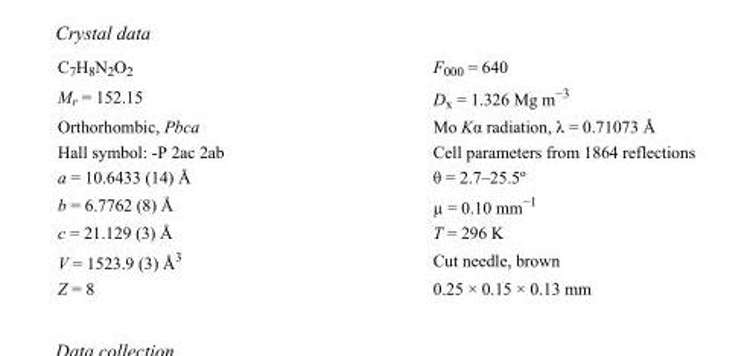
<table><tbody><tr><td>C<sub>7</sub>H<sub>8</sub>N<sub>2</sub>O<sub>2</sub></td><td>F000 = 640</td></tr><tr><td>M<sub>r</sub> = 152.15</td><td>D<sub>x</sub> = 1.326 Mg m<sup>−3</sup></td></tr><tr><td>Orthorhombic, Pbca</td><td>Mo Kα radiation, λ = 0.71073 Å</td></tr><tr><td>Hall symbol: -P 2ac 2ab</td><td>Cell parameters from 1864 reflections</td></tr><tr><td>a = 10.6433 (14) Å</td><td>θ = 2.7–25.5º</td></tr><tr><td>b = 6.7762 (8) Å</td><td>µ = 0.10 mm<sup>−1</sup></td></tr><tr><td>c = 21.129 (3) Å</td><td>T = 296 K</td></tr><tr><td>V = 1523.9 (3) Å<sup>3</sup></td><td>Cut needle, brown</td></tr><tr><td>Z = 8</td><td>0.25 × 0.15 × 0.13 mm</td></tr></tbody></table>